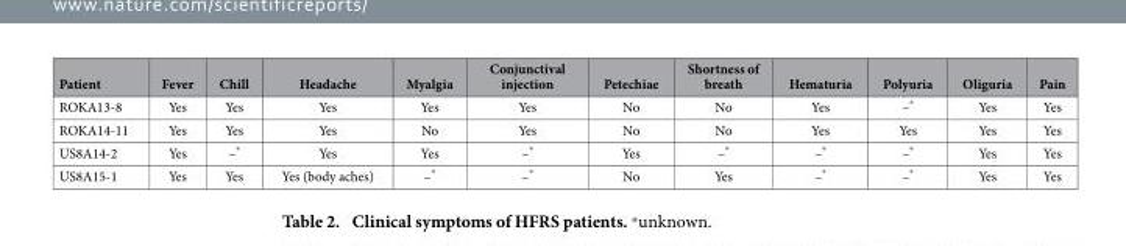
<table><thead><tr><td>Patient</td><td>Fever</td><td>Chill</td><td>Headache</td><td>Myalgia</td><td>Conjunctival injection</td><td>Petechiae</td><td>Shortness of breath</td><td>Hematuria</td><td>Polyuria</td><td>Oliguria</td><td>Pain</td></tr></thead><tbody><tr><td>ROKA13-8</td><td>Yes</td><td>Yes</td><td>Yes</td><td>Yes</td><td>Yes</td><td>No</td><td>No</td><td>Yes</td><td>–*</td><td>Yes</td><td>Yes</td></tr><tr><td>ROKA14-11</td><td>Yes</td><td>Yes</td><td>Yes</td><td>No</td><td>Yes</td><td>No</td><td>No</td><td>Yes</td><td>Yes</td><td>Yes</td><td>Yes</td></tr><tr><td>US8A14-2</td><td>Yes</td><td>–*</td><td>Yes</td><td>Yes</td><td>–*</td><td>Yes</td><td>–*</td><td>–*</td><td>–*</td><td>Yes</td><td>Yes</td></tr><tr><td>US8A15-1</td><td>Yes</td><td>Yes</td><td>Yes (body aches)</td><td>–*</td><td>–*</td><td>No</td><td>Yes</td><td>–*</td><td>–*</td><td>Yes</td><td>Yes</td></tr></tbody></table>